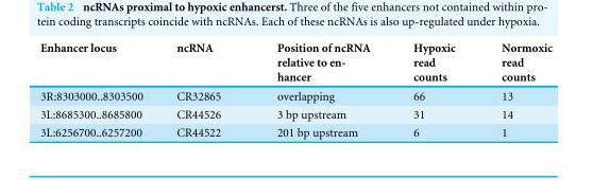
<table><thead><tr><td>Enhancer locus</td><td>ncRNA</td><td>Position of ncRNA relative to en- hancer</td><td>Hypoxic read counts</td><td>Normoxic read counts</td></tr></thead><tbody><tr><td>3R:8303000..8303500</td><td>CR32865</td><td>overlapping</td><td>66</td><td>13</td></tr><tr><td>3L:8685300..8685800</td><td>CR44526</td><td>3 bp upstream</td><td>31</td><td>14</td></tr><tr><td>3L:6256700..6257200</td><td>CR44522</td><td>201 bp upstream</td><td>6</td><td>1</td></tr></tbody></table>